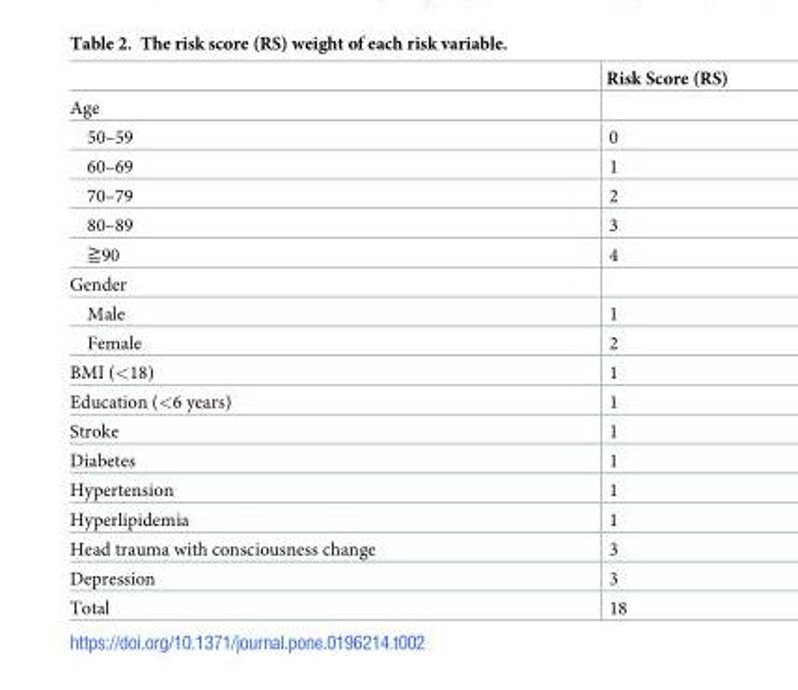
<table><thead><tr><td></td><td>Risk Score (RS)</td></tr></thead><tbody><tr><td colspan="2">Age</td></tr><tr><td>50–59</td><td>0</td></tr><tr><td>60–69</td><td>1</td></tr><tr><td>70–79</td><td>2</td></tr><tr><td>80–89</td><td>3</td></tr><tr><td>≧90</td><td>4</td></tr><tr><td colspan="2">Gender</td></tr><tr><td>Male</td><td>1</td></tr><tr><td>Female</td><td>2</td></tr><tr><td>BMI (&lt;18)</td><td>1</td></tr><tr><td>Education (&lt;6 years)</td><td>1</td></tr><tr><td>Stroke</td><td>1</td></tr><tr><td>Diabetes</td><td>1</td></tr><tr><td>Hypertension</td><td>1</td></tr><tr><td>Hyperlipidemia</td><td>1</td></tr><tr><td>Head trauma with consciousness change</td><td>3</td></tr><tr><td>Depression</td><td>3</td></tr><tr><td>Total</td><td>18</td></tr></tbody></table>